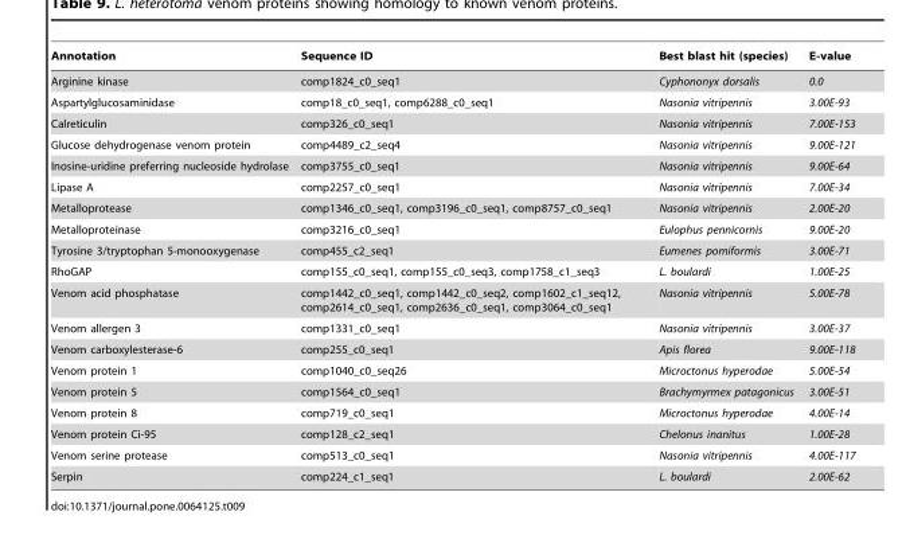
<table><thead><tr><td>Annotation</td><td>Sequence ID</td><td>Best blast hit (species)</td><td>E-value</td></tr></thead><tbody><tr><td>Arginine kinase</td><td>comp1824_c0_seq1</td><td>Cyphononyx dorsalis</td><td>0.0</td></tr><tr><td>Aspartylglucosaminidase</td><td>comp18_c0_seq1, comp6288_c0_seq1</td><td>Nasonia vitripennis</td><td>3.00E-93</td></tr><tr><td>Calreticulin</td><td>comp326_c0_seq1</td><td>Nasonia vitripennis</td><td>7.00E-153</td></tr><tr><td>Glucose dehydrogenase venom protein</td><td>comp4489_c2_seq4</td><td>Nasonia vitripennis</td><td>9.00E-121</td></tr><tr><td>Inosine-uridine preferring nucleoside hydrolase</td><td>comp3755_c0_seq1</td><td>Nasonia vitripennis</td><td>9.00E-64</td></tr><tr><td>Lipase A</td><td>comp2257_c0_seq1</td><td>Nasonia vitripennis</td><td>7.00E-34</td></tr><tr><td>Metalloprotease</td><td>comp1346_c0_seq1, comp3196_c0_seq1, comp8757_c0_seq1</td><td>Nasonia vitripennis</td><td>2.00E-20</td></tr><tr><td>Metalloproteinase</td><td>comp3216_c0_seq1</td><td>Eulophus pennicornis</td><td>9.00E-20</td></tr><tr><td>Tyrosine 3/tryptophan 5-monooxygenase</td><td>comp455_c2_seq1</td><td>Eumenes pomiformis</td><td>3.00E-71</td></tr><tr><td>RhoGAP</td><td>comp155_c0_seq1, comp155_c0_seq3, comp1758_c1_seq3</td><td>L. boulardi</td><td>1.00E-25</td></tr><tr><td>Venom acid phosphatase</td><td>comp1442_c0_seq1, comp1442_c0_seq2, comp1602_c1_seq12, comp2614_c0_seq1, comp2636_c0_seq1, comp3064_c0_seq1</td><td>Nasonia vitripennis</td><td>5.00E-78</td></tr><tr><td>Venom allergen 3</td><td>comp1331_c0_seq1</td><td>Nasonia vitripennis</td><td>3.00E-37</td></tr><tr><td>Venom carboxylesterase-6</td><td>comp255_c0_seq1</td><td>Apis florea</td><td>9.00E-118</td></tr><tr><td>Venom protein 1</td><td>comp1040_c0_seq26</td><td>Microctonus hyperodae</td><td>5.00E-54</td></tr><tr><td>Venom protein 5</td><td>comp1564_c0_seq1</td><td>Brachymyrmex patagonicus</td><td>3.00E-51</td></tr><tr><td>Venom protein 8</td><td>comp719_c0_seq1</td><td>Microctonus hyperodae</td><td>4.00E-14</td></tr><tr><td>Venom protein Ci-95</td><td>comp128_c2_seq1</td><td>Chelonus inanitus</td><td>1.00E-28</td></tr><tr><td>Venom serine protease</td><td>comp513_c0_seq1</td><td>Nasonia vitripennis</td><td>4.00E-117</td></tr><tr><td>Serpin</td><td>comp224_c1_seq1</td><td>L. boulardi</td><td>2.00E-62</td></tr></tbody></table>